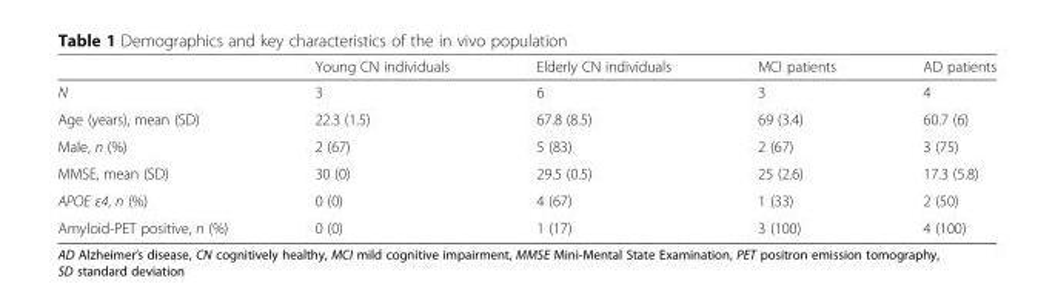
<table><thead><tr><td></td><td>Young CN individuals</td><td>Elderly CN individuals</td><td>MCI patients</td><td>AD patients</td></tr></thead><tbody><tr><td>N</td><td>3</td><td>6</td><td>3</td><td>4</td></tr><tr><td>Age (years), mean (SD)</td><td>22.3 (1.5)</td><td>67.8 (8.5)</td><td>69 (3.4)</td><td>60.7 (6)</td></tr><tr><td>Male, n (%)</td><td>2 (67)</td><td>5 (83)</td><td>2 (67)</td><td>3 (75)</td></tr><tr><td>MMSE, mean (SD)</td><td>30 (0)</td><td>29.5 (0.5)</td><td>25 (2.6)</td><td>17.3 (5.8)</td></tr><tr><td>APOE ε4, n (%)</td><td>0 (0)</td><td>4 (67)</td><td>1 (33)</td><td>2 (50)</td></tr><tr><td>Amyloid-PET positive, n (%)</td><td>0 (0)</td><td>1 (17)</td><td>3 (100)</td><td>4 (100)</td></tr></tbody></table>